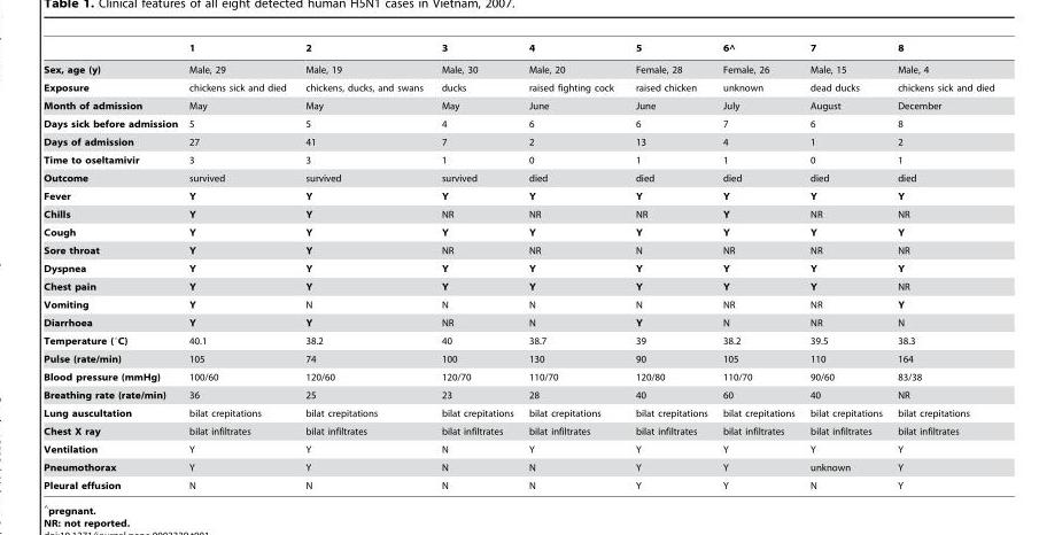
<table><thead><tr><td></td><td>1</td><td>2</td><td>3</td><td>4</td><td>5</td><td>6^</td><td>7</td><td>8</td></tr></thead><tbody><tr><td>Sex, age (y)</td><td>Male, 29</td><td>Male, 19</td><td>Male, 30</td><td>Male, 20</td><td>Female, 28</td><td>Female, 26</td><td>Male, 15</td><td>Male, 4</td></tr><tr><td>Exposure</td><td>chickens sick and died</td><td>chickens, ducks, and swans</td><td>ducks</td><td>raised fighting cock</td><td>raised chicken</td><td>unknown</td><td>dead ducks</td><td>chickens sick and died</td></tr><tr><td>Month of admission</td><td>May</td><td>May</td><td>May</td><td>June</td><td>June</td><td>July</td><td>August</td><td>December</td></tr><tr><td>Days sick before admission</td><td>5</td><td>5</td><td>4</td><td>6</td><td>6</td><td>7</td><td>6</td><td>8</td></tr><tr><td>Days of admission</td><td>27</td><td>41</td><td>7</td><td>2</td><td>13</td><td>4</td><td>1</td><td>2</td></tr><tr><td>Time to oseltamivir</td><td>3</td><td>3</td><td>1</td><td>0</td><td>1</td><td>1</td><td>0</td><td>1</td></tr><tr><td>Outcome</td><td>survived</td><td>survived</td><td>survived</td><td>died</td><td>died</td><td>died</td><td>died</td><td>died</td></tr><tr><td>Fever</td><td>Y</td><td>Y</td><td>Y</td><td>Y</td><td>Y</td><td>Y</td><td>Y</td><td>Y</td></tr><tr><td>Chills</td><td>Y</td><td>Y</td><td>NR</td><td>NR</td><td>NR</td><td>Y</td><td>NR</td><td>NR</td></tr><tr><td>Cough</td><td>Y</td><td>Y</td><td>Y</td><td>Y</td><td>Y</td><td>Y</td><td>Y</td><td>Y</td></tr><tr><td>Sore throat</td><td>Y</td><td>Y</td><td>NR</td><td>NR</td><td>N</td><td>NR</td><td>NR</td><td>NR</td></tr><tr><td>Dyspnea</td><td>Y</td><td>Y</td><td>Y</td><td>Y</td><td>Y</td><td>Y</td><td>Y</td><td>Y</td></tr><tr><td>Chest pain</td><td>Y</td><td>Y</td><td>Y</td><td>Y</td><td>Y</td><td>Y</td><td>Y</td><td>NR</td></tr><tr><td>Vomiting</td><td>Y</td><td>N</td><td>N</td><td>N</td><td>N</td><td>NR</td><td>NR</td><td>Y</td></tr><tr><td>Diarrhoea</td><td>Y</td><td>Y</td><td>NR</td><td>N</td><td>Y</td><td>N</td><td>NR</td><td>N</td></tr><tr><td>Temperature (°C)</td><td>40.1</td><td>38.2</td><td>40</td><td>38.7</td><td>39</td><td>38.2</td><td>39.5</td><td>38.3</td></tr><tr><td>Pulse (rate/min)</td><td>105</td><td>74</td><td>100</td><td>130</td><td>90</td><td>105</td><td>110</td><td>164</td></tr><tr><td>Blood pressure (mmHg)</td><td>100/60</td><td>120/60</td><td>120/70</td><td>110/70</td><td>120/80</td><td>110/70</td><td>90/60</td><td>83/38</td></tr><tr><td>Breathing rate (rate/min)</td><td>36</td><td>25</td><td>23</td><td>28</td><td>40</td><td>60</td><td>40</td><td>NR</td></tr><tr><td>Lung auscultation</td><td>bilat crepitations</td><td>bilat crepitations</td><td>bilat crepitations</td><td>bilat crepitations</td><td>bilat crepitations</td><td>bilat crepitations</td><td>bilat crepitations</td><td>bilat crepitations</td></tr><tr><td>Chest X ray</td><td>bilat infiltrates</td><td>bilat infiltrates</td><td>bilat infiltrates</td><td>bilat infiltrates</td><td>bilat infiltrates</td><td>bilat infiltrates</td><td>bilat infiltrates</td><td>bilat infiltrates</td></tr><tr><td>Ventilation</td><td>Y</td><td>Y</td><td>N</td><td>Y</td><td>Y</td><td>Y</td><td>Y</td><td>Y</td></tr><tr><td>Pneumothorax</td><td>Y</td><td>Y</td><td>N</td><td>N</td><td>Y</td><td>Y</td><td>unknown</td><td>Y</td></tr><tr><td>Pleural effusion</td><td>N</td><td>N</td><td>N</td><td>N</td><td>Y</td><td>Y</td><td>N</td><td>Y</td></tr></tbody></table>